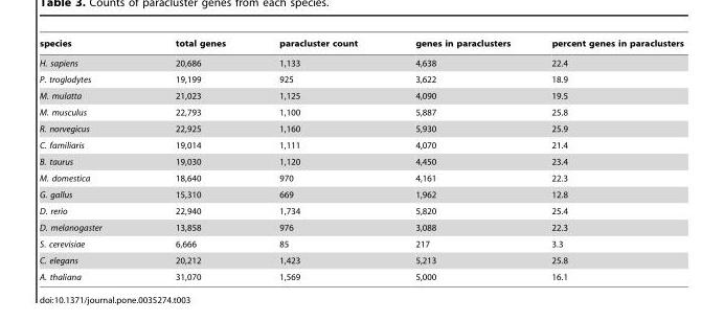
<table><thead><tr><td>species</td><td>total genes</td><td>paracluster count</td><td>genes in paraclusters</td><td>percent genes in paraclusters</td></tr></thead><tbody><tr><td>H. sapiens</td><td>20,686</td><td>1,133</td><td>4,638</td><td>22.4</td></tr><tr><td>P. troglodytes</td><td>19,199</td><td>925</td><td>3,622</td><td>18.9</td></tr><tr><td>M. mulatta</td><td>21,023</td><td>1,125</td><td>4,090</td><td>19.5</td></tr><tr><td>M. musculus</td><td>22,793</td><td>1,100</td><td>5,887</td><td>25.8</td></tr><tr><td>R. norvegicus</td><td>22,925</td><td>1,160</td><td>5,930</td><td>25.9</td></tr><tr><td>C. familiaris</td><td>19,014</td><td>1,111</td><td>4,070</td><td>21.4</td></tr><tr><td>B. taurus</td><td>19,030</td><td>1,120</td><td>4,450</td><td>23.4</td></tr><tr><td>M. domestica</td><td>18,640</td><td>970</td><td>4,161</td><td>22.3</td></tr><tr><td>G. gallus</td><td>15,310</td><td>669</td><td>1,962</td><td>12.8</td></tr><tr><td>D. rerio</td><td>22,940</td><td>1,734</td><td>5,820</td><td>25.4</td></tr><tr><td>D. melanogaster</td><td>13,858</td><td>976</td><td>3,088</td><td>22.3</td></tr><tr><td>S. cerevisiae</td><td>6,666</td><td>85</td><td>217</td><td>3.3</td></tr><tr><td>C. elegans</td><td>20,212</td><td>1,423</td><td>5,213</td><td>25.8</td></tr><tr><td>A. thaliana</td><td>31,070</td><td>1,569</td><td>5,000</td><td>16.1</td></tr></tbody></table>